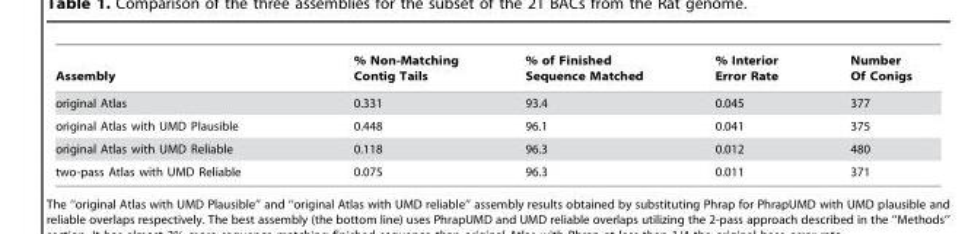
<table><thead><tr><td>Assembly</td><td>% Non-Matching Contig Tails</td><td>% of Finished Sequence Matched</td><td>% Interior Error Rate</td><td>Number Of Conigs</td></tr></thead><tbody><tr><td>original Atlas</td><td>0.331</td><td>93.4</td><td>0.045</td><td>377</td></tr><tr><td>original Atlas with UMD Plausible</td><td>0.448</td><td>96.1</td><td>0.041</td><td>375</td></tr><tr><td>original Atlas with UMD Reliable</td><td>0.118</td><td>96.3</td><td>0.012</td><td>480</td></tr><tr><td>two-pass Atlas with UMD Reliable</td><td>0.075</td><td>96.3</td><td>0.011</td><td>371</td></tr></tbody></table>